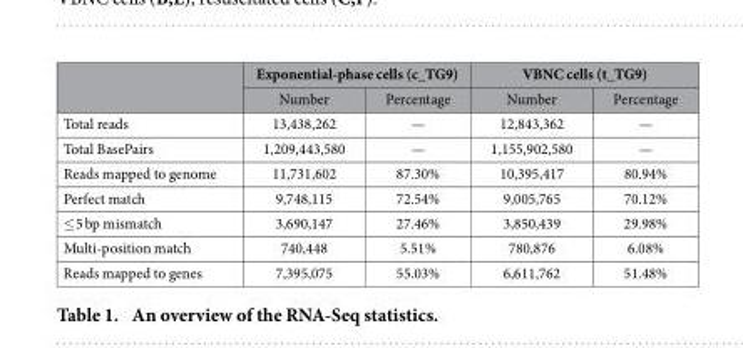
<table><thead><tr><td rowspan="2"></td><td colspan="2">Exponential-phase cells (c_TG9)</td><td colspan="2">VBNC cells (t_TG9)</td></tr><tr><td>Number</td><td>Percentage</td><td>Number</td><td>Percentage</td></tr></thead><tbody><tr><td>Total reads</td><td>13,438,262</td><td>—</td><td>12,843,362</td><td>—</td></tr><tr><td>Total BasePairs</td><td>1,209,443,580</td><td>—</td><td>1,155,902,580</td><td>—</td></tr><tr><td>Reads mapped to genome</td><td>11,731,602</td><td>87.30%</td><td>10,395,417</td><td>80.94%</td></tr><tr><td>Perfect match</td><td>9,748,115</td><td>72.54%</td><td>9,005,765</td><td>70.12%</td></tr><tr><td>≤ 5 bp mismatch</td><td>3,690,147</td><td>27.46%</td><td>3,850,439</td><td>29.98%</td></tr><tr><td>Multi-position match</td><td>740,448</td><td>5.51%</td><td>780,876</td><td>6.08%</td></tr><tr><td>Reads mapped to genes</td><td>7,395,075</td><td>55.03%</td><td>6,611,762</td><td>51.48%</td></tr></tbody></table>